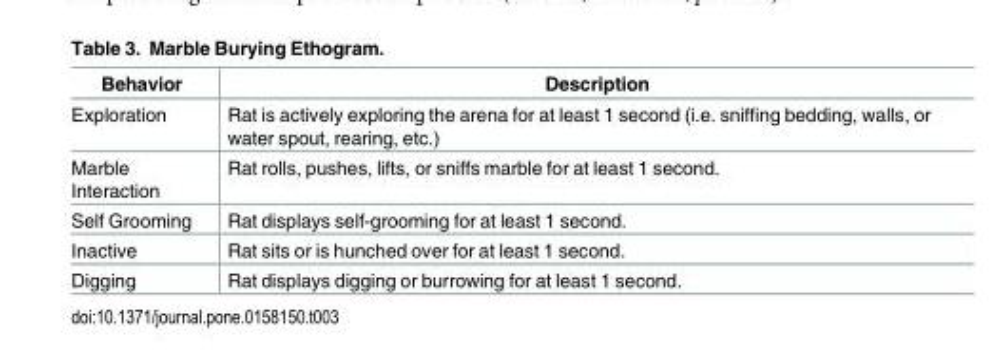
<table><thead><tr><td>Behavior</td><td>Description</td></tr></thead><tbody><tr><td>Exploration</td><td>Rat is actively exploring the arena for at least 1 second (i.e. sniffing bedding, walls, or water spout, rearing, etc.)</td></tr><tr><td>Marble Interaction</td><td>Rat rolls, pushes, lifts, or sniffs marble for at least 1 second.</td></tr><tr><td>Self Grooming</td><td>Rat displays self-grooming for at least 1 second.</td></tr><tr><td>Inactive</td><td>Rat sits or is hunched over for at least 1 second.</td></tr><tr><td>Digging</td><td>Rat displays digging or burrowing for at least 1 second.</td></tr></tbody></table>